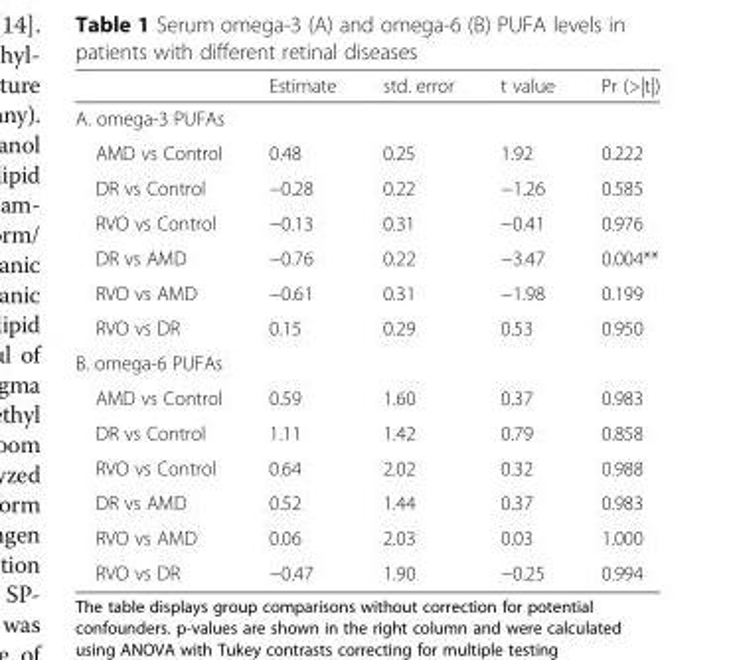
<table><thead><tr><td></td><td>Estimate</td><td>std. error</td><td>t value</td><td>Pr (&gt;|t|)</td></tr></thead><tbody><tr><td colspan="5">A. omega-3 PUFAs</td></tr><tr><td>AMD vs Control</td><td>0.48</td><td>0.25</td><td>1.92</td><td>0.222</td></tr><tr><td>DR vs Control</td><td>−0.28</td><td>0.22</td><td>−1.26</td><td>0.585</td></tr><tr><td>RVO vs Control</td><td>−0.13</td><td>0.31</td><td>−0.41</td><td>0.976</td></tr><tr><td>DR vs AMD</td><td>−0.76</td><td>0.22</td><td>−3.47</td><td>0.004**</td></tr><tr><td>RVO vs AMD</td><td>−0.61</td><td>0.31</td><td>−1.98</td><td>0.199</td></tr><tr><td>RVO vs DR</td><td>0.15</td><td>0.29</td><td>0.53</td><td>0.950</td></tr><tr><td colspan="5">B. omega-6 PUFAs</td></tr><tr><td>AMD vs Control</td><td>0.59</td><td>1.60</td><td>0.37</td><td>0.983</td></tr><tr><td>DR vs Control</td><td>1.11</td><td>1.42</td><td>0.79</td><td>0.858</td></tr><tr><td>RVO vs Control</td><td>0.64</td><td>2.02</td><td>0.32</td><td>0.988</td></tr><tr><td>DR vs AMD</td><td>0.52</td><td>1.44</td><td>0.37</td><td>0.983</td></tr><tr><td>RVO vs AMD</td><td>0.06</td><td>2.03</td><td>0.03</td><td>1.000</td></tr><tr><td>RVO vs DR</td><td>−0.47</td><td>1.90</td><td>−0.25</td><td>0.994</td></tr></tbody></table>